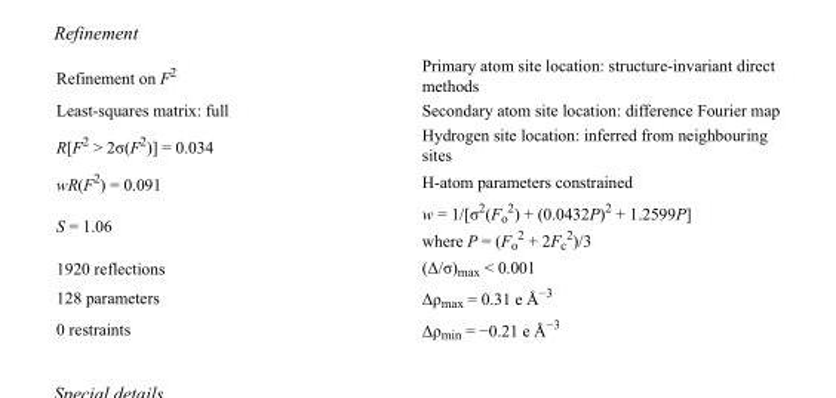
<table><tbody><tr><td>Refinement on F<sup>2</sup></td><td>Primary atom site location: structure-invariant direct methods</td></tr><tr><td>Least-squares matrix: full</td><td>Secondary atom site location: difference Fourier map</td></tr><tr><td>R[F<sup>2</sup> &gt; 2σ(F<sup>2</sup>)] = 0.034</td><td>Hydrogen site location: inferred from neighbouring sites</td></tr><tr><td>wR(F<sup>2</sup>) = 0.091</td><td>H-atom parameters constrained</td></tr><tr><td>S = 1.06</td><td>w = 1/[σ<sup>2</sup>(F<sub>o</sub> <sup>2</sup>) + (0.0432P)<sup>2</sup> + 1.2599P] where P = (F<sub>o</sub> <sup>2</sup> + 2F<sub>c</sub> <sup>2</sup>)/3</td></tr><tr><td>1920 reflections</td><td>(Δ/σ)<sub>max</sub> &lt; 0.001</td></tr><tr><td>128 parameters</td><td>Δρ<sub>max</sub> = 0.31 e Å<sup>−3</sup></td></tr><tr><td>0 restraints</td><td>Δρ<sub>min</sub> = −0.21 e Å<sup>−3</sup></td></tr></tbody></table>